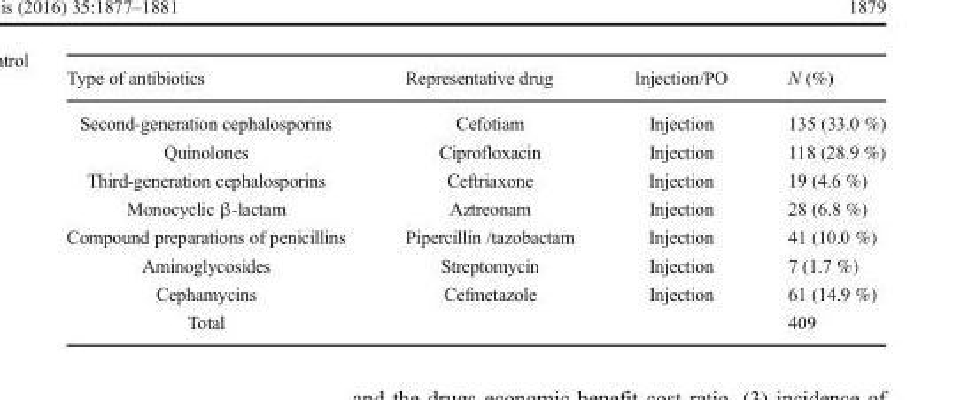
<table><thead><tr><td>Type of antibiotics</td><td>Representative drug</td><td>Injection/PO</td><td>N (%)</td></tr></thead><tbody><tr><td>Second-generation cephalosporins</td><td>Cefotiam</td><td>Injection</td><td>135 (33.0 %)</td></tr><tr><td>Quinolones</td><td>Ciprofloxacin</td><td>Injection</td><td>118 (28.9 %)</td></tr><tr><td>Third-generation cephalosporins</td><td>Ceftriaxone</td><td>Injection</td><td>19 (4.6 %)</td></tr><tr><td>Monocyclic β-lactam</td><td>Aztreonam</td><td>Injection</td><td>28 (6.8 %)</td></tr><tr><td>Compound preparations of penicillins</td><td>Pipercillin /tazobactam</td><td>Injection</td><td>41 (10.0 %)</td></tr><tr><td>Aminoglycosides</td><td>Streptomycin</td><td>Injection</td><td>7 (1.7 %)</td></tr><tr><td>Cephamycins</td><td>Cefmetazole</td><td>Injection</td><td>61 (14.9 %)</td></tr><tr><td>Total</td><td></td><td></td><td>409</td></tr></tbody></table>